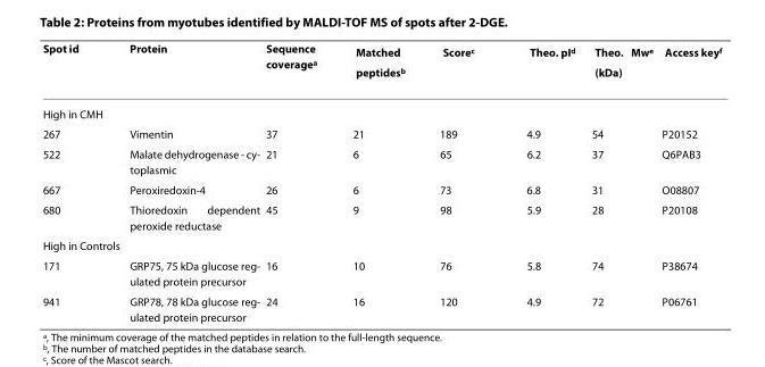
<table><thead><tr><td>Spot id</td><td>Protein</td><td>Sequence coverage<sup>a</sup></td><td>Matched peptides<sup>b</sup></td><td>Score<sup>c</sup></td><td>Theo. pI<sup>d</sup></td><td>Theo. Mw<sup>e</sup> (kDa)</td><td>Access key<sup>f</sup></td></tr></thead><tbody><tr><td colspan="8">High in CMH</td></tr><tr><td>267</td><td>Vimentin</td><td>37</td><td>21</td><td>189</td><td>4.9</td><td>54</td><td>P20152</td></tr><tr><td>522</td><td>Malate dehydrogenase - cy- toplasmic</td><td>21</td><td>6</td><td>65</td><td>6.2</td><td>37</td><td>Q6PAB3</td></tr><tr><td>667</td><td>Peroxiredoxin-4</td><td>26</td><td>6</td><td>73</td><td>6.8</td><td>31</td><td>O08807</td></tr><tr><td>680</td><td>Thioredoxin dependent peroxide reductase</td><td>45</td><td>9</td><td>98</td><td>5.9</td><td>28</td><td>P20108</td></tr><tr><td colspan="8">High in Controls</td></tr><tr><td>171</td><td>GRP75, 75 kDa glucose reg- ulated protein precursor</td><td>16</td><td>10</td><td>76</td><td>5.8</td><td>74</td><td>P38674</td></tr><tr><td>941</td><td>GRP78, 78 kDa glucose reg- ulated protein precursor</td><td>24</td><td>16</td><td>120</td><td>4.9</td><td>72</td><td>P06761</td></tr></tbody></table>